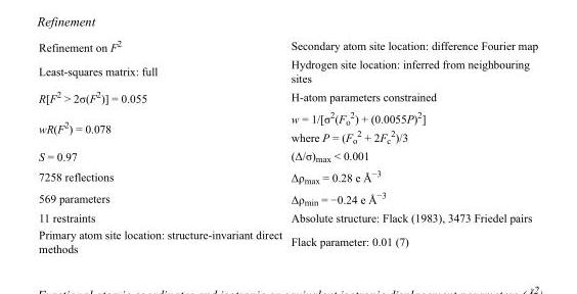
<table><tbody><tr><td>Refinement on F<sup>2</sup></td><td>Secondary atom site location: difference Fourier map</td></tr><tr><td>Least-squares matrix: full</td><td>Hydrogen site location: inferred from neighbouring sites</td></tr><tr><td>R[F<sup>2</sup> &gt; 2σ(F<sup>2</sup>)] = 0.055</td><td>H-atom parameters constrained</td></tr><tr><td>wR(F<sup>2</sup>) = 0.078</td><td>w = 1/[σ<sup>2</sup>(F<sub>o</sub> <sup>2</sup>) + (0.0055P)<sup>2</sup>] where P = (F<sub>o</sub> <sup>2</sup> + 2F<sub>c</sub> <sup>2</sup>)/3</td></tr><tr><td>S = 0.97</td><td>(Δ/σ)<sub>max</sub> &lt; 0.001</td></tr><tr><td>7258 reflections</td><td>Δρ<sub>max</sub> = 0.28 e Å<sup>−3</sup></td></tr><tr><td>569 parameters</td><td>Δρ<sub>min</sub> = −0.24 e Å<sup>−3</sup></td></tr><tr><td>11 restraints</td><td>Absolute structure: Flack (1983), 3473 Friedel pairs</td></tr><tr><td>Primary atom site location: structure-invariant direct methods</td><td>Flack parameter: 0.01 (7)</td></tr></tbody></table>